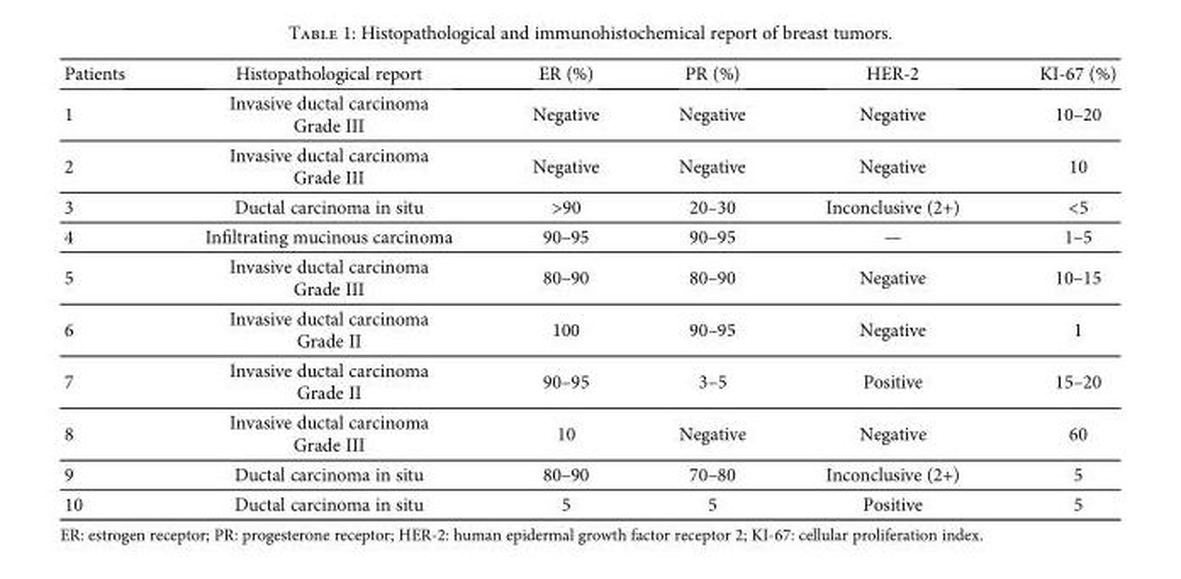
<table><thead><tr><td>Patients</td><td>Histopathological report</td><td>ER (%)</td><td>PR (%)</td><td>HER-2</td><td>KI-67 (%)</td></tr></thead><tbody><tr><td>1</td><td>Invasive ductal carcinoma Grade III</td><td>Negative</td><td>Negative</td><td>Negative</td><td>10–20</td></tr><tr><td>2</td><td>Invasive ductal carcinoma Grade III</td><td>Negative</td><td>Negative</td><td>Negative</td><td>10</td></tr><tr><td>3</td><td>Ductal carcinoma in situ</td><td>&gt;90</td><td>20–30</td><td>Inconclusive (2+)</td><td>&lt;5</td></tr><tr><td>4</td><td>Infiltrating mucinous carcinoma</td><td>90–95</td><td>90–95</td><td>—</td><td>1–5</td></tr><tr><td>5</td><td>Invasive ductal carcinoma Grade III</td><td>80–90</td><td>80–90</td><td>Negative</td><td>10–15</td></tr><tr><td>6</td><td>Invasive ductal carcinoma Grade II</td><td>100</td><td>90–95</td><td>Negative</td><td>1</td></tr><tr><td>7</td><td>Invasive ductal carcinoma Grade II</td><td>90–95</td><td>3–5</td><td>Positive</td><td>15–20</td></tr><tr><td>8</td><td>Invasive ductal carcinoma Grade III</td><td>10</td><td>Negative</td><td>Negative</td><td>60</td></tr><tr><td>9</td><td>Ductal carcinoma in situ</td><td>80–90</td><td>70–80</td><td>Inconclusive (2+)</td><td>5</td></tr><tr><td>10</td><td>Ductal carcinoma in situ</td><td>5</td><td>5</td><td>Positive</td><td>5</td></tr></tbody></table>